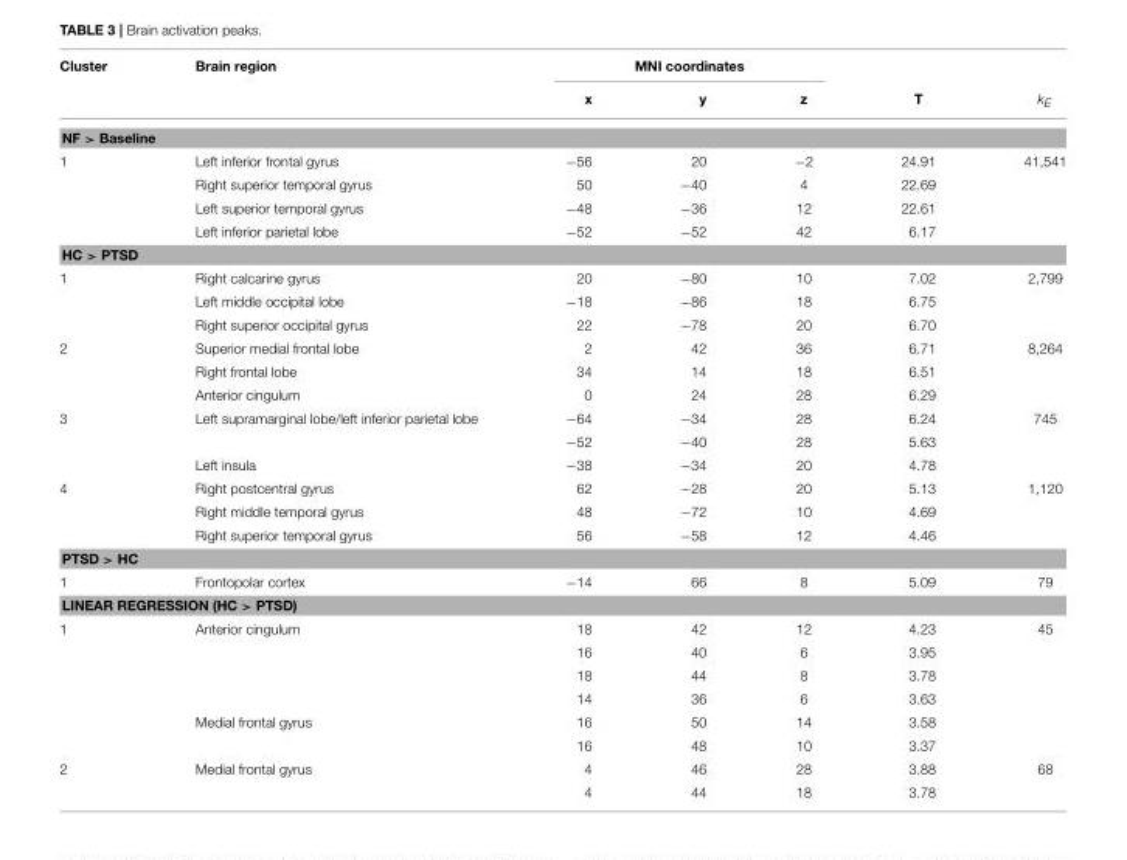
<table><thead><tr><td rowspan="2">Cluster</td><td rowspan="2">Brain region</td><td colspan="3">MNI coordinates</td><td rowspan="2">T</td><td rowspan="2">kE</td></tr><tr><td>x</td><td>y</td><td>z</td></tr></thead><tbody><tr><td colspan="7">NF &gt; Baseline</td></tr><tr><td rowspan="4">1</td><td>Left inferior frontal gyrus</td><td>−56</td><td>20</td><td>−2</td><td>24.91</td><td>41,541</td></tr><tr><td>Right superior temporal gyrus</td><td>50</td><td>−40</td><td>4</td><td>22.69</td><td></td></tr><tr><td>Left superior temporal gyrus</td><td>−48</td><td>−36</td><td>12</td><td>22.61</td><td></td></tr><tr><td>Left inferior parietal lobe</td><td>−52</td><td>−52</td><td>42</td><td>6.17</td><td></td></tr><tr><td colspan="7">HC &gt; PTSD</td></tr><tr><td rowspan="3">1</td><td>Right calcarine gyrus</td><td>20</td><td>−80</td><td>10</td><td>7.02</td><td>2,799</td></tr><tr><td>Left middle occipital lobe</td><td>−18</td><td>−86</td><td>18</td><td>6.75</td><td></td></tr><tr><td>Right superior occipital gyrus</td><td>22</td><td>−78</td><td>20</td><td>6.70</td><td></td></tr><tr><td rowspan="3">2</td><td>Superior medial frontal lobe</td><td>2</td><td>42</td><td>36</td><td>6.71</td><td>8,264</td></tr><tr><td>Right frontal lobe</td><td>34</td><td>14</td><td>18</td><td>6.51</td><td></td></tr><tr><td>Anterior cingulum</td><td>0</td><td>24</td><td>28</td><td>6.29</td><td></td></tr><tr><td rowspan="3">3</td><td>Left supramarginal lobe/left inferior parietal lobe</td><td>−64</td><td>−34</td><td>28</td><td>6.24</td><td>745</td></tr><tr><td></td><td>−52</td><td>−40</td><td>28</td><td>5.63</td><td></td></tr><tr><td>Left insula</td><td>−38</td><td>−34</td><td>20</td><td>4.78</td><td></td></tr><tr><td rowspan="3">4</td><td>Right postcentral gyrus</td><td>62</td><td>−28</td><td>20</td><td>5.13</td><td>1,120</td></tr><tr><td>Right middle temporal gyrus</td><td>48</td><td>−72</td><td>10</td><td>4.69</td><td></td></tr><tr><td>Right superior temporal gyrus</td><td>56</td><td>−58</td><td>12</td><td>4.46</td><td></td></tr><tr><td colspan="7">PTSD &gt; HC</td></tr><tr><td>1</td><td>Frontopolar cortex</td><td>−14</td><td>66</td><td>8</td><td>5.09</td><td>79</td></tr><tr><td colspan="7">LINEAR REGRESSION (HC &gt; PTSD)</td></tr><tr><td rowspan="6">1</td><td>Anterior cingulum</td><td>18</td><td>42</td><td>12</td><td>4.23</td><td>45</td></tr><tr><td></td><td>16</td><td>40</td><td>6</td><td>3.95</td><td></td></tr><tr><td></td><td>18</td><td>44</td><td>8</td><td>3.78</td><td></td></tr><tr><td></td><td>14</td><td>36</td><td>6</td><td>3.63</td><td></td></tr><tr><td>Medial frontal gyrus</td><td>16</td><td>50</td><td>14</td><td>3.58</td><td></td></tr><tr><td></td><td>16</td><td>48</td><td>10</td><td>3.37</td><td></td></tr><tr><td rowspan="2">2</td><td>Medial frontal gyrus</td><td>4</td><td>46</td><td>28</td><td>3.88</td><td>68</td></tr><tr><td></td><td>4</td><td>44</td><td>18</td><td>3.78</td><td></td></tr></tbody></table>